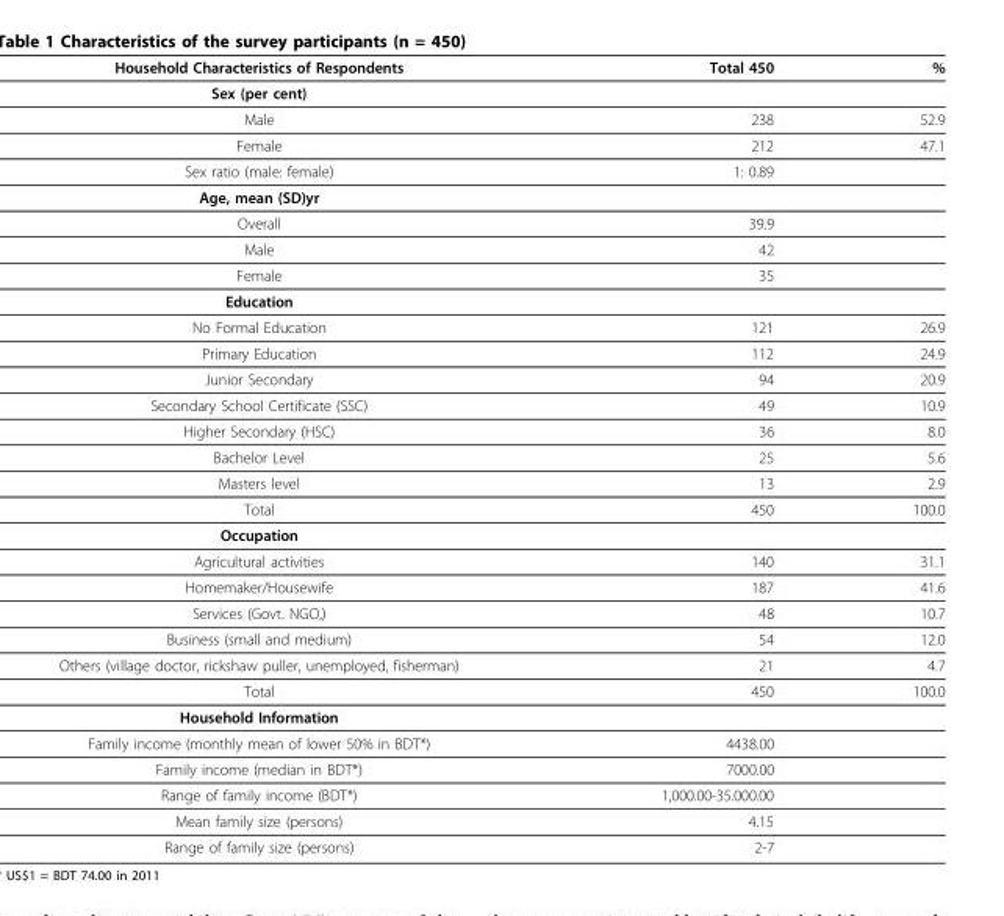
<table><thead><tr><td>Household Characteristics of Respondents</td><td>Total 450</td><td>%</td></tr></thead><tbody><tr><td colspan="3">Sex (per cent)</td></tr><tr><td>Male</td><td>238</td><td>52.9</td></tr><tr><td>Female</td><td>212</td><td>47.1</td></tr><tr><td>Sex ratio (male: female)</td><td>1: 0.89</td><td></td></tr><tr><td colspan="3">Age, mean (SD)yr</td></tr><tr><td>Overall</td><td>39.9</td><td></td></tr><tr><td>Male</td><td>42</td><td></td></tr><tr><td>Female</td><td>35</td><td></td></tr><tr><td colspan="3">Education</td></tr><tr><td>No Formal Education</td><td>121</td><td>26.9</td></tr><tr><td>Primary Education</td><td>112</td><td>24.9</td></tr><tr><td>Junior Secondary</td><td>94</td><td>20.9</td></tr><tr><td>Secondary School Certificate (SSC)</td><td>49</td><td>10.9</td></tr><tr><td>Higher Secondary (HSC)</td><td>36</td><td>8.0</td></tr><tr><td>Bachelor Level</td><td>25</td><td>5.6</td></tr><tr><td>Masters level</td><td>13</td><td>2.9</td></tr><tr><td>Total</td><td>450</td><td>100.0</td></tr><tr><td colspan="3">Occupation</td></tr><tr><td>Agricultural activities</td><td>140</td><td>31.1</td></tr><tr><td>Homemaker/Housewife</td><td>187</td><td>41.6</td></tr><tr><td>Services (Govt. NGO,)</td><td>48</td><td>10.7</td></tr><tr><td>Business (small and medium)</td><td>54</td><td>12.0</td></tr><tr><td>Others (village doctor, rickshaw puller, unemployed, fisherman)</td><td>21</td><td>4.7</td></tr><tr><td>Total</td><td>450</td><td>100.0</td></tr><tr><td colspan="3">Household Information</td></tr><tr><td>Family income (monthly mean of lower 50% in BDT*)</td><td>4438.00</td><td></td></tr><tr><td>Family income (median in BDT*)</td><td>7000.00</td><td></td></tr><tr><td>Range of family income (BDT*)</td><td>1,000.00-35.000.00</td><td></td></tr><tr><td>Mean family size (persons)</td><td>4.15</td><td></td></tr><tr><td>Range of family size (persons)</td><td>2-7</td><td></td></tr></tbody></table>